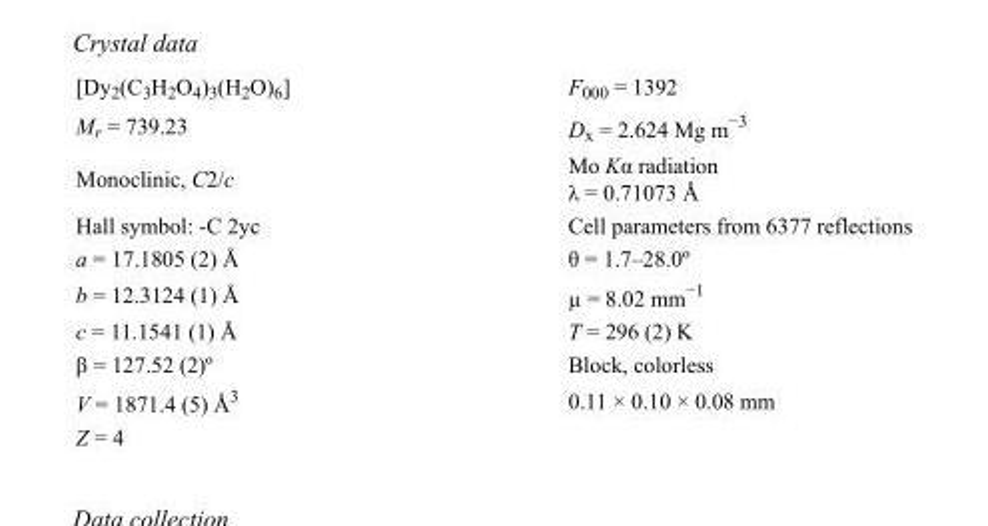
<table><tbody><tr><td>[Dy<sub>2</sub>(C<sub>3</sub>H<sub>2</sub>O<sub>4</sub>)<sub>3</sub>(H<sub>2</sub>O)<sub>6</sub>]</td><td>F<sub>000</sub> = 1392</td></tr><tr><td>M<sub>r</sub> = 739.23</td><td>D<sub>x</sub> = 2.624 Mg m<sup>−3</sup></td></tr><tr><td>Monoclinic, C2/c</td><td>Mo Kα radiation λ = 0.71073 Å</td></tr><tr><td>Hall symbol: -C 2yc</td><td>Cell parameters from 6377 reflections</td></tr><tr><td>a = 17.1805 (2) Å</td><td>θ = 1.7–28.0º</td></tr><tr><td>b = 12.3124 (1) Å</td><td>µ = 8.02 mm<sup>−1</sup></td></tr><tr><td>c = 11.1541 (1) Å</td><td>T = 296 (2) K</td></tr><tr><td>β = 127.52 (2)º</td><td>Block, colorless</td></tr><tr><td>V = 1871.4 (5) Å<sup>3</sup></td><td>0.11 × 0.10 × 0.08 mm</td></tr><tr><td>Z = 4</td><td></td></tr></tbody></table>